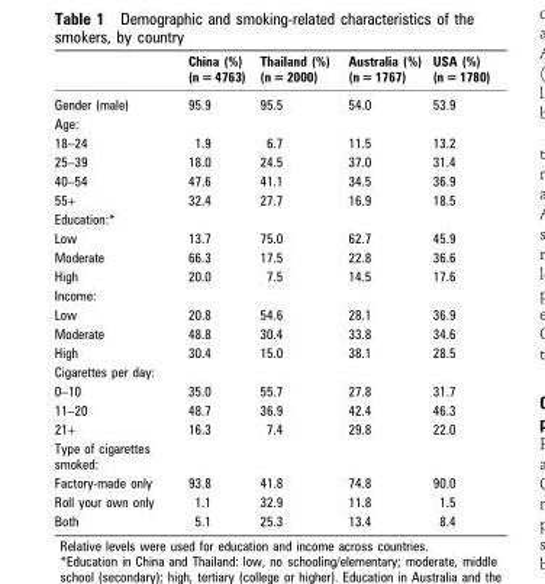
<table><thead><tr><td></td><td>China (%) (n = 4763)</td><td>Thailand (%) (n = 2000)</td><td>Australia (%) (n = 1767)</td><td>USA (%) (n = 1780)</td></tr></thead><tbody><tr><td>Gender (male)</td><td>95.9</td><td>95.5</td><td>54.0</td><td>53.9</td></tr><tr><td colspan="5">Age:</td></tr><tr><td>18–24</td><td>1.9</td><td>6.7</td><td>11.5</td><td>13.2</td></tr><tr><td>25–39</td><td>18.0</td><td>24.5</td><td>37.0</td><td>31.4</td></tr><tr><td>40–54</td><td>47.6</td><td>41.1</td><td>34.5</td><td>36.9</td></tr><tr><td>55+</td><td>32.4</td><td>27.7</td><td>16.9</td><td>18.5</td></tr><tr><td colspan="5">Education:*</td></tr><tr><td>Low</td><td>13.7</td><td>75.0</td><td>62.7</td><td>45.9</td></tr><tr><td>Moderate</td><td>66.3</td><td>17.5</td><td>22.8</td><td>36.6</td></tr><tr><td>High</td><td>20.0</td><td>7.5</td><td>14.5</td><td>17.6</td></tr><tr><td colspan="5">Income:</td></tr><tr><td>Low</td><td>20.8</td><td>54.6</td><td>28.1</td><td>36.9</td></tr><tr><td>Moderate</td><td>48.8</td><td>30.4</td><td>33.8</td><td>34.6</td></tr><tr><td>High</td><td>30.4</td><td>15.0</td><td>38.1</td><td>28.5</td></tr><tr><td colspan="5">Cigarettes per day:</td></tr><tr><td>0–10</td><td>35.0</td><td>55.7</td><td>27.8</td><td>31.7</td></tr><tr><td>11–20</td><td>48.7</td><td>36.9</td><td>42.4</td><td>46.3</td></tr><tr><td>21+</td><td>16.3</td><td>7.4</td><td>29.8</td><td>22.0</td></tr><tr><td colspan="5">Type of cigarettes smoked:</td></tr><tr><td>Factory-made only</td><td>93.8</td><td>41.8</td><td>74.8</td><td>90.0</td></tr><tr><td>Roll your own only</td><td>1.1</td><td>32.9</td><td>11.8</td><td>1.5</td></tr><tr><td>Both</td><td>5.1</td><td>25.3</td><td>13.4</td><td>8.4</td></tr></tbody></table>